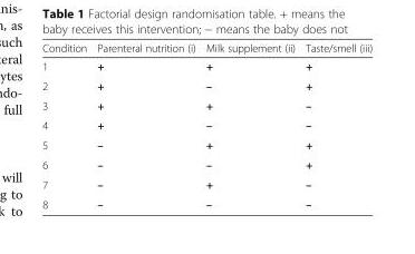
<table><thead><tr><td>Condition</td><td>Parenteral nutrition (i)</td><td>Milk supplement (ii)</td><td>Taste/smell (iii)</td></tr></thead><tbody><tr><td>1</td><td>+</td><td>+</td><td>+</td></tr><tr><td>2</td><td>+</td><td>–</td><td>+</td></tr><tr><td>3</td><td>+</td><td>+</td><td>–</td></tr><tr><td>4</td><td>+</td><td>–</td><td>–</td></tr><tr><td>5</td><td>–</td><td>+</td><td>+</td></tr><tr><td>6</td><td>–</td><td>–</td><td>+</td></tr><tr><td>7</td><td>–</td><td>+</td><td>–</td></tr><tr><td>8</td><td>–</td><td>–</td><td>–</td></tr></tbody></table>